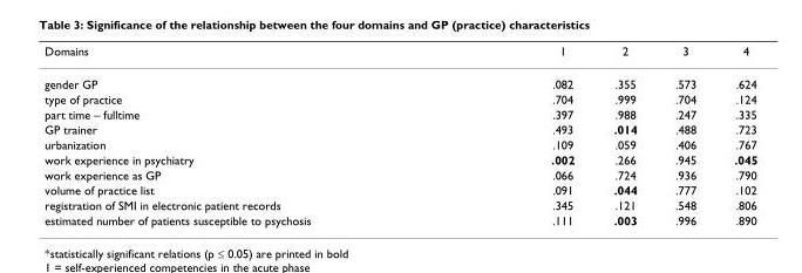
<table><thead><tr><td>Domains</td><td>1</td><td>2</td><td>3</td><td>4</td></tr></thead><tbody><tr><td>gender GP</td><td>.082</td><td>.355</td><td>.573</td><td>.624</td></tr><tr><td>type of practice</td><td>.704</td><td>.999</td><td>.704</td><td>.124</td></tr><tr><td>part time – fulltime</td><td>.397</td><td>.988</td><td>.247</td><td>.335</td></tr><tr><td>GP trainer</td><td>.493</td><td>.014</td><td>.488</td><td>.723</td></tr><tr><td>urbanization</td><td>.109</td><td>.059</td><td>.406</td><td>.767</td></tr><tr><td>work experience in psychiatry</td><td>.002</td><td>.266</td><td>.945</td><td>.045</td></tr><tr><td>work experience as GP</td><td>.066</td><td>.724</td><td>.936</td><td>.790</td></tr><tr><td>volume of practice list</td><td>.091</td><td>.044</td><td>.777</td><td>.102</td></tr><tr><td>registration of SMI in electronic patient records</td><td>.345</td><td>.121</td><td>.548</td><td>.806</td></tr><tr><td>estimated number of patients susceptible to psychosis</td><td>.111</td><td>.003</td><td>.996</td><td>.890</td></tr></tbody></table>